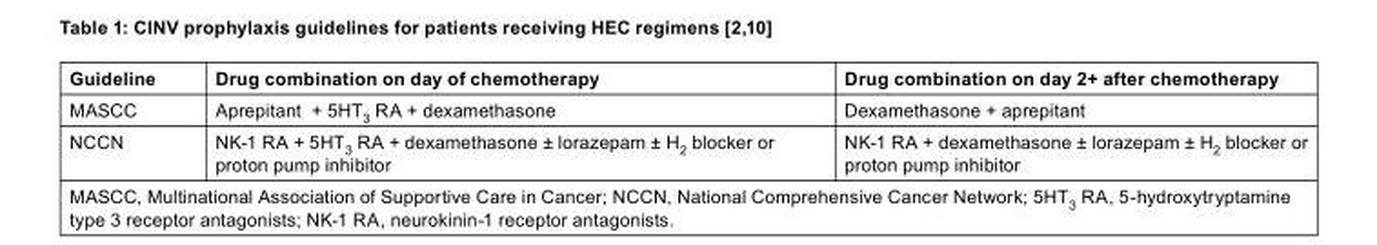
<table><thead><tr><td>Guideline</td><td>Drug combination on day of chemotherapy</td><td>Drug combination on day 2+ after chemotherapy</td></tr></thead><tbody><tr><td>MASCC</td><td>Aprepitant + 5HT<sub>3</sub> RA + dexamethasone</td><td>Dexamethasone + aprepitant</td></tr><tr><td>NCCN</td><td>NK-1 RA + 5HT<sub>3</sub> RA + dexamethasone ± lorazepam ± H<sub>2</sub> blocker or proton pump inhibitor</td><td>NK-1 RA + dexamethasone ± lorazepam ± H<sub>2</sub> blocker or proton pump inhibitor</td></tr></tbody></table>